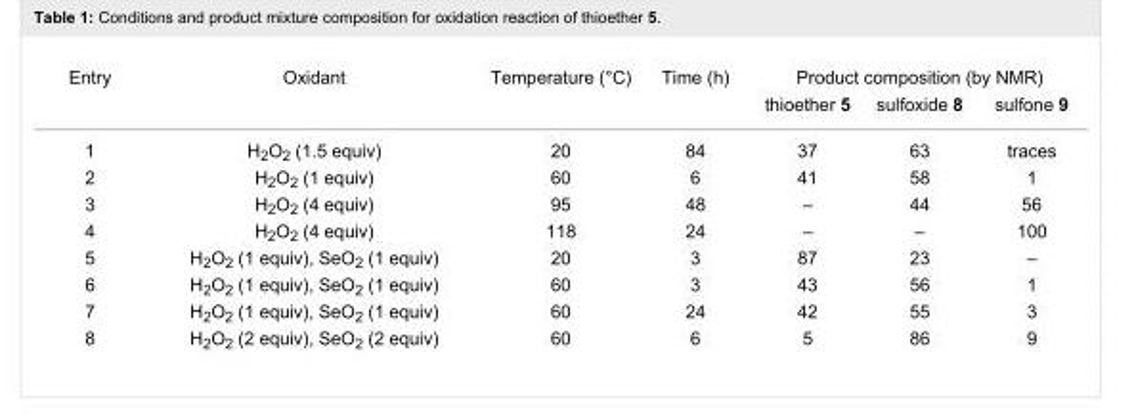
<table><tbody><tr><td rowspan="2">Entry</td><td rowspan="2">Oxidant</td><td rowspan="2">Temperature (°C)</td><td rowspan="2">Time (h)</td><td colspan="3">Product composition (by NMR)</td></tr><tr><td>thioether 5</td><td>sulfoxide 8</td><td>sulfone 9</td></tr><tr><td>1</td><td>H<sub>2</sub>O<sub>2</sub> (1.5 equiv)</td><td>20</td><td>84</td><td>37</td><td>63</td><td>traces</td></tr><tr><td>2</td><td>H<sub>2</sub>O<sub>2</sub> (1 equiv)</td><td>60</td><td>6</td><td>41</td><td>58</td><td>1</td></tr><tr><td>3</td><td>H<sub>2</sub>O<sub>2</sub> (4 equiv)</td><td>95</td><td>48</td><td>–</td><td>44</td><td>56</td></tr><tr><td>4</td><td>H<sub>2</sub>O<sub>2</sub> (4 equiv)</td><td>118</td><td>24</td><td>–</td><td>–</td><td>100</td></tr><tr><td>5</td><td>H<sub>2</sub>O<sub>2</sub> (1 equiv), SeO<sub>2</sub> (1 equiv)</td><td>20</td><td>3</td><td>87</td><td>23</td><td>–</td></tr><tr><td>6</td><td>H<sub>2</sub>O<sub>2</sub> (1 equiv), SeO<sub>2</sub> (1 equiv)</td><td>60</td><td>3</td><td>43</td><td>56</td><td>1</td></tr><tr><td>7</td><td>H<sub>2</sub>O<sub>2</sub> (1 equiv), SeO<sub>2</sub> (1 equiv)</td><td>60</td><td>24</td><td>42</td><td>55</td><td>3</td></tr><tr><td>8</td><td>H<sub>2</sub>O<sub>2</sub> (2 equiv), SeO<sub>2</sub> (2 equiv)</td><td>60</td><td>6</td><td>5</td><td>86</td><td>9</td></tr></tbody></table>